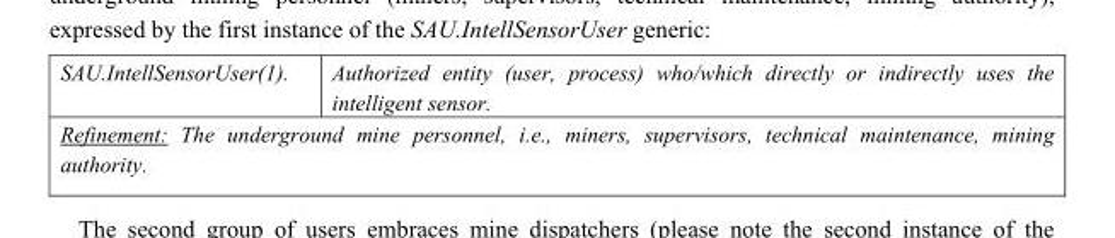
<table><tbody><tr><td>SAU.IntellSensorUser(1).</td><td>Authorized entity (user, process) who/which directly or indirectly uses the intelligent sensor.</td></tr><tr><td colspan="2">Refinement: The underground mine personnel, i.e., miners, supervisors, technical maintenance, mining authority.</td></tr></tbody></table>